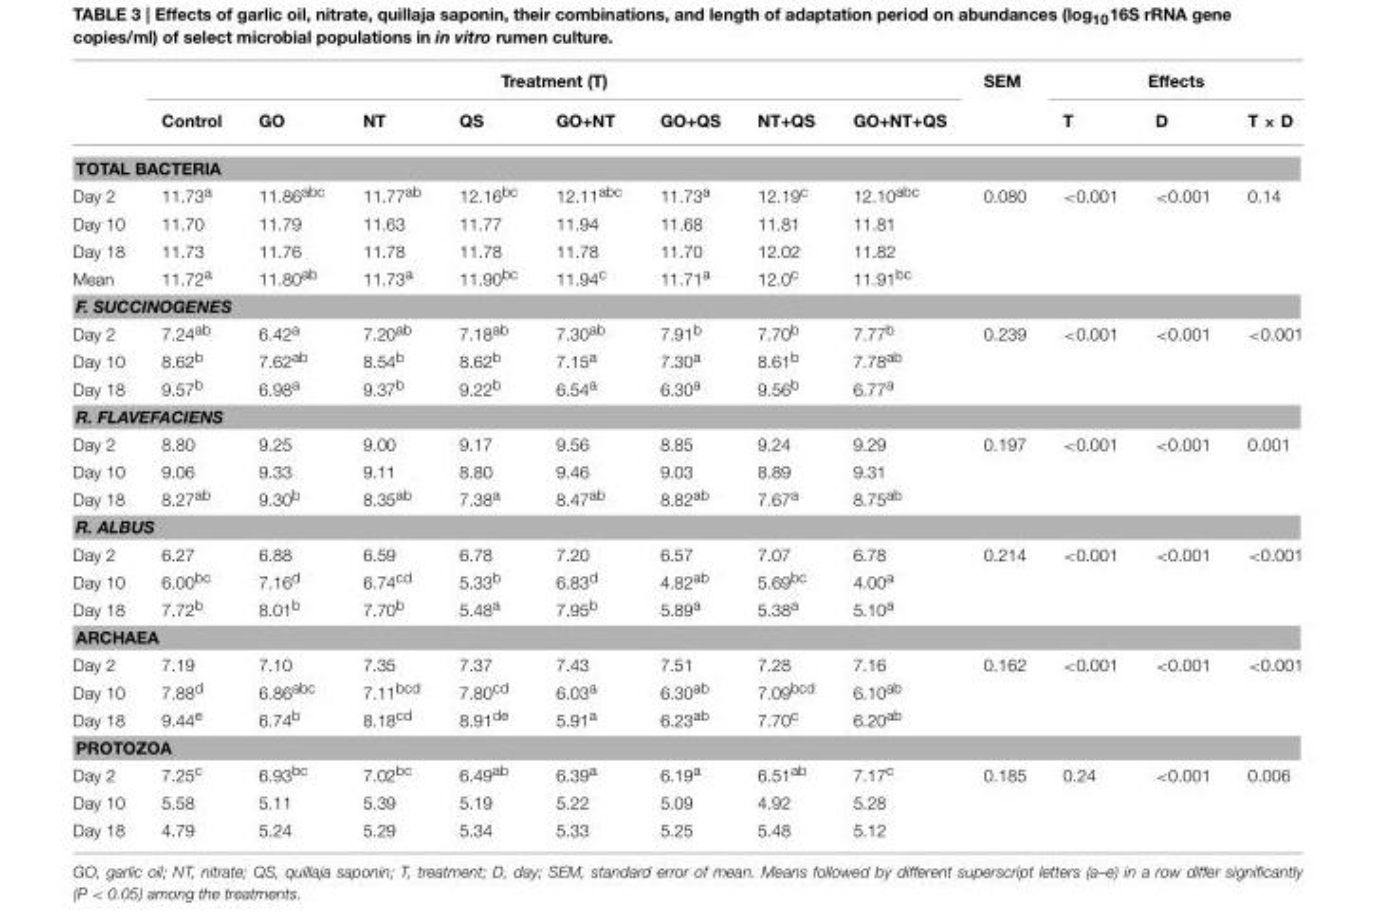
<table><thead><tr><td rowspan="2"></td><td colspan="8">Treatment (T)</td><td rowspan="2">SEM</td><td colspan="3">Effects</td></tr><tr><td>Control</td><td>GO</td><td>NT</td><td>QS</td><td>GO+NT</td><td>GO+QS</td><td>NT+QS</td><td>GO+NT+QS</td><td>T</td><td>D</td><td>T × D</td></tr></thead><tbody><tr><td colspan="13">TOTAL BACTERIA</td></tr><tr><td>Day 2</td><td>11.73<sup>a</sup></td><td>11.86<sup>abc</sup></td><td>11.77<sup>ab</sup></td><td>12.16<sup>bc</sup></td><td>12.11<sup>abc</sup></td><td>11.73<sup>a</sup></td><td>12.19<sup>c</sup></td><td>12.10<sup>abc</sup></td><td>0.080</td><td>&lt;0.001</td><td>&lt;0.001</td><td>0.14</td></tr><tr><td>Day 10</td><td>11.70</td><td>11.79</td><td>11.63</td><td>11.77</td><td>11.94</td><td>11.68</td><td>11.81</td><td>11.81</td><td></td><td></td><td></td><td></td></tr><tr><td>Day 18</td><td>11.73</td><td>11.76</td><td>11.78</td><td>11.78</td><td>11.78</td><td>11.70</td><td>12.02</td><td>11.82</td><td></td><td></td><td></td><td></td></tr><tr><td>Mean</td><td>11.72<sup>a</sup></td><td>11.80<sup>ab</sup></td><td>11.73<sup>a</sup></td><td>11.90<sup>bc</sup></td><td>11.94<sup>c</sup></td><td>11.71<sup>a</sup></td><td>12.0<sup>c</sup></td><td>11.91<sup>bc</sup></td><td></td><td></td><td></td><td></td></tr><tr><td colspan="13">F. SUCCINOGENES</td></tr><tr><td>Day 2</td><td>7.24<sup>ab</sup></td><td>6.42<sup>a</sup></td><td>7.20<sup>ab</sup></td><td>7.18<sup>ab</sup></td><td>7.30<sup>ab</sup></td><td>7.91<sup>b</sup></td><td>7.70<sup>b</sup></td><td>7.77<sup>b</sup></td><td>0.239</td><td>&lt;0.001</td><td>&lt;0.001</td><td>&lt;0.001</td></tr><tr><td>Day 10</td><td>8.62<sup>b</sup></td><td>7.62<sup>ab</sup></td><td>8.54<sup>b</sup></td><td>8.62<sup>b</sup></td><td>7.15<sup>a</sup></td><td>7.30<sup>a</sup></td><td>8.61<sup>b</sup></td><td>7.78<sup>ab</sup></td><td></td><td></td><td></td><td></td></tr><tr><td>Day 18</td><td>9.57<sup>b</sup></td><td>6.98<sup>a</sup></td><td>9.37<sup>b</sup></td><td>9.22<sup>b</sup></td><td>6.54<sup>a</sup></td><td>6.30<sup>a</sup></td><td>9.56<sup>b</sup></td><td>6.77<sup>a</sup></td><td></td><td></td><td></td><td></td></tr><tr><td colspan="13">R. FLAVEFACIENS</td></tr><tr><td>Day 2</td><td>8.80</td><td>9.25</td><td>9.00</td><td>9.17</td><td>9.56</td><td>8.85</td><td>9.24</td><td>9.29</td><td>0.197</td><td>&lt;0.001</td><td>&lt;0.001</td><td>0.001</td></tr><tr><td>Day 10</td><td>9.06</td><td>9.33</td><td>9.11</td><td>8.80</td><td>9.46</td><td>9.03</td><td>8.89</td><td>9.31</td><td></td><td></td><td></td><td></td></tr><tr><td>Day 18</td><td>8.27<sup>ab</sup></td><td>9.30<sup>b</sup></td><td>8.35<sup>ab</sup></td><td>7.38<sup>a</sup></td><td>8.47<sup>ab</sup></td><td>8.82<sup>ab</sup></td><td>7.67<sup>a</sup></td><td>8.75<sup>ab</sup></td><td></td><td></td><td></td><td></td></tr><tr><td colspan="13">R. ALBUS</td></tr><tr><td>Day 2</td><td>6.27</td><td>6.88</td><td>6.59</td><td>6.78</td><td>7.20</td><td>6.57</td><td>7.07</td><td>6.78</td><td>0.214</td><td>&lt;0.001</td><td>&lt;0.001</td><td>&lt;0.001</td></tr><tr><td>Day 10</td><td>6.00<sup>bc</sup></td><td>7.16<sup>d</sup></td><td>6.74<sup>cd</sup></td><td>5.33<sup>b</sup></td><td>6.83<sup>d</sup></td><td>4.82<sup>ab</sup></td><td>5.69<sup>bc</sup></td><td>4.00<sup>a</sup></td><td></td><td></td><td></td><td></td></tr><tr><td>Day 18</td><td>7.72<sup>b</sup></td><td>8.01<sup>b</sup></td><td>7.70<sup>b</sup></td><td>5.48<sup>a</sup></td><td>7.95<sup>b</sup></td><td>5.89<sup>a</sup></td><td>5.38<sup>a</sup></td><td>5.10<sup>a</sup></td><td></td><td></td><td></td><td></td></tr><tr><td colspan="13">ARCHAEA</td></tr><tr><td>Day 2</td><td>7.19</td><td>7.10</td><td>7.35</td><td>7.37</td><td>7.43</td><td>7.51</td><td>7.28</td><td>7.16</td><td>0.162</td><td>&lt;0.001</td><td>&lt;0.001</td><td>&lt;0.001</td></tr><tr><td>Day 10</td><td>7.88<sup>d</sup></td><td>6.86<sup>abc</sup></td><td>7.11<sup>bcd</sup></td><td>7.80<sup>cd</sup></td><td>6.03<sup>a</sup></td><td>6.30<sup>ab</sup></td><td>7.09<sup>bcd</sup></td><td>6.10<sup>ab</sup></td><td></td><td></td><td></td><td></td></tr><tr><td>Day 18</td><td>9.44<sup>e</sup></td><td>6.74<sup>b</sup></td><td>8.18<sup>cd</sup></td><td>8.91<sup>de</sup></td><td>5.91<sup>a</sup></td><td>6.23<sup>ab</sup></td><td>7.70<sup>c</sup></td><td>6.20<sup>ab</sup></td><td></td><td></td><td></td><td></td></tr><tr><td colspan="13">PROTOZOA</td></tr><tr><td>Day 2</td><td>7.25<sup>c</sup></td><td>6.93<sup>bc</sup></td><td>7.02<sup>bc</sup></td><td>6.49<sup>ab</sup></td><td>6.39<sup>a</sup></td><td>6.19<sup>a</sup></td><td>6.51<sup>ab</sup></td><td>7.17<sup>c</sup></td><td>0.185</td><td>0.24</td><td>&lt;0.001</td><td>0.006</td></tr><tr><td>Day 10</td><td>5.58</td><td>5.11</td><td>5.39</td><td>5.19</td><td>5.22</td><td>5.09</td><td>4.92</td><td>5.28</td><td></td><td></td><td></td><td></td></tr><tr><td>Day 18</td><td>4.79</td><td>5.24</td><td>5.29</td><td>5.34</td><td>5.33</td><td>5.25</td><td>5.48</td><td>5.12</td><td></td><td></td><td></td><td></td></tr></tbody></table>